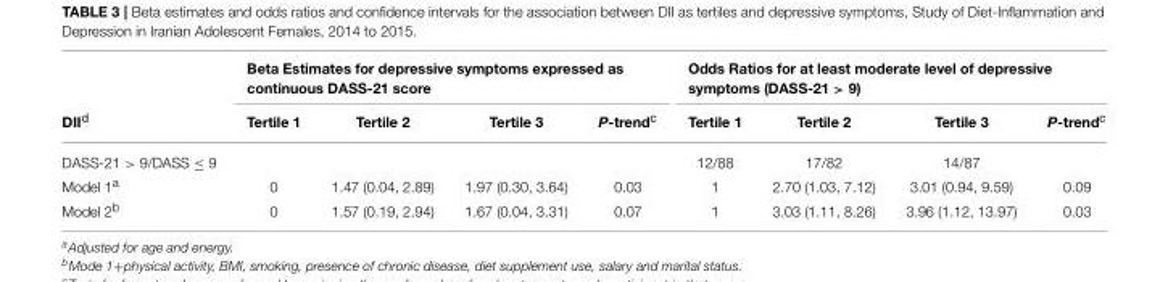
<table><thead><tr><td rowspan="2">DII<sup>d</sup></td><td colspan="4">Beta Estimates for depressive symptoms expressed as continuous DASS-21 score</td><td colspan="4">Odds Ratios for at least moderate level of depressive symptoms (DASS-21 &gt; 9)</td></tr><tr><td>Tertile 1</td><td>Tertile 2</td><td>Tertile 3</td><td>P-trend<sup>c</sup></td><td>Tertile 1</td><td>Tertile 2</td><td>Tertile 3</td><td>P-trend<sup>c</sup></td></tr></thead><tbody><tr><td>DASS-21 &gt; 9/DASS ≤ 9</td><td></td><td></td><td></td><td></td><td>12/88</td><td>17/82</td><td>14/87</td><td></td></tr><tr><td>Model 1<sup>a</sup></td><td>0</td><td>1.47 (0.04, 2.89)</td><td>1.97 (0.30, 3.64)</td><td>0.03</td><td>1</td><td>2.70 (1.03, 7.12)</td><td>3.01 (0.94, 9.59)</td><td>0.09</td></tr><tr><td>Model 2<sup>b</sup></td><td>0</td><td>1.57 (0.19, 2.94)</td><td>1.67 (0.04, 3.31)</td><td>0.07</td><td>1</td><td>3.03 (1.11, 8.26)</td><td>3.96 (1.12, 13.97)</td><td>0.03</td></tr></tbody></table>